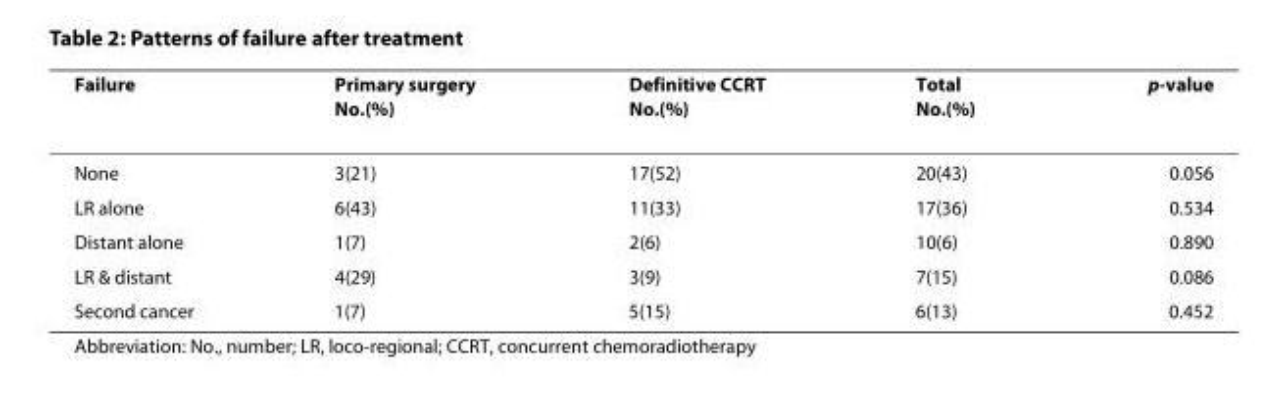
<table><thead><tr><td>Failure</td><td>Primary surgery No.(%)</td><td>Definitive CCRT No.(%)</td><td>Total No.(%)</td><td>p-value</td></tr></thead><tbody><tr><td>None</td><td>3(21)</td><td>17(52)</td><td>20(43)</td><td>0.056</td></tr><tr><td>LR alone</td><td>6(43)</td><td>11(33)</td><td>17(36)</td><td>0.534</td></tr><tr><td>Distant alone</td><td>1(7)</td><td>2(6)</td><td>10(6)</td><td>0.890</td></tr><tr><td>LR &amp; distant</td><td>4(29)</td><td>3(9)</td><td>7(15)</td><td>0.086</td></tr><tr><td>Second cancer</td><td>1(7)</td><td>5(15)</td><td>6(13)</td><td>0.452</td></tr></tbody></table>